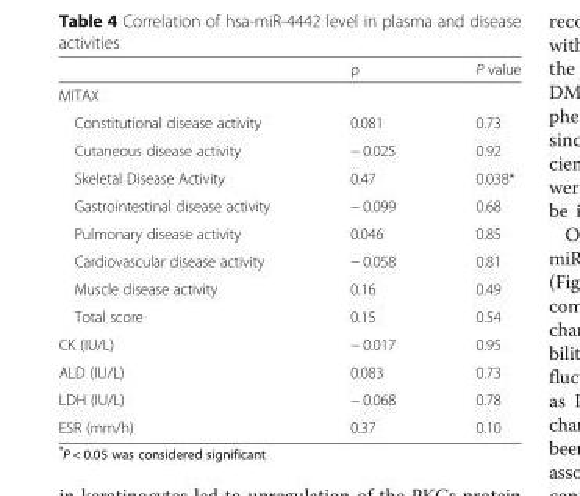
<table><thead><tr><td></td><td>ρ</td><td>P value</td></tr></thead><tbody><tr><td colspan="3">MITAX</td></tr><tr><td>Constitutional disease activity</td><td>0.081</td><td>0.73</td></tr><tr><td>Cutaneous disease activity</td><td>− 0.025</td><td>0.92</td></tr><tr><td>Skeletal Disease Activity</td><td>0.47</td><td>0.038*</td></tr><tr><td>Gastrointestinal disease activity</td><td>− 0.099</td><td>0.68</td></tr><tr><td>Pulmonary disease activity</td><td>0.046</td><td>0.85</td></tr><tr><td>Cardiovascular disease activity</td><td>− 0.058</td><td>0.81</td></tr><tr><td>Muscle disease activity</td><td>0.16</td><td>0.49</td></tr><tr><td>Total score</td><td>0.15</td><td>0.54</td></tr><tr><td>CK (IU/L)</td><td>− 0.017</td><td>0.95</td></tr><tr><td>ALD (IU/L)</td><td>0.083</td><td>0.73</td></tr><tr><td>LDH (IU/L)</td><td>− 0.068</td><td>0.78</td></tr><tr><td>ESR (mm/h)</td><td>0.37</td><td>0.10</td></tr></tbody></table>